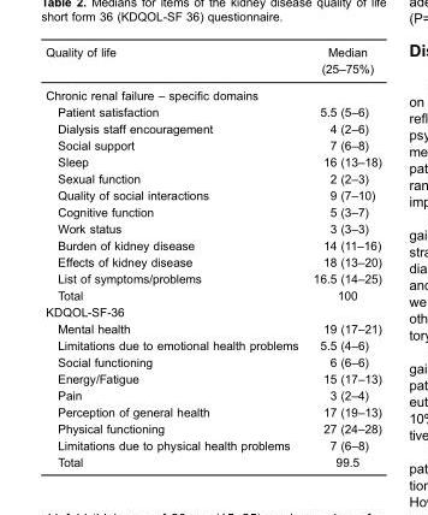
<table><thead><tr><td>Quality of life</td><td>Median (25–75%)</td></tr></thead><tbody><tr><td colspan="2">Chronic renal failure – specific domains</td></tr><tr><td>Patient satisfaction</td><td>5.5 (5–6)</td></tr><tr><td>Dialysis staff encouragement</td><td>4 (2–6)</td></tr><tr><td>Social support</td><td>7 (6–8)</td></tr><tr><td>Sleep</td><td>16 (13–18)</td></tr><tr><td>Sexual function</td><td>2 (2–3)</td></tr><tr><td>Quality of social interactions</td><td>9 (7–10)</td></tr><tr><td>Cognitive function</td><td>5 (3–7)</td></tr><tr><td>Work status</td><td>3 (3–3)</td></tr><tr><td>Burden of kidney disease</td><td>14 (11–16)</td></tr><tr><td>Effects of kidney disease</td><td>18 (13–20)</td></tr><tr><td>List of symptoms/problems</td><td>16.5 (14–25)</td></tr><tr><td>Total</td><td>100</td></tr><tr><td colspan="2">KDQOL-SF-36</td></tr><tr><td>Mental health</td><td>19 (17–21)</td></tr><tr><td>Limitations due to emotional health problems</td><td>5.5 (4–6)</td></tr><tr><td>Social functioning</td><td>6 (6–6)</td></tr><tr><td>Energy/Fatigue</td><td>15 (17–13)</td></tr><tr><td>Pain</td><td>3 (2–4)</td></tr><tr><td>Perception of general health</td><td>17 (19–13)</td></tr><tr><td>Physical functioning</td><td>27 (24–28)</td></tr><tr><td>Limitations due to physical health problems</td><td>7 (6–8)</td></tr><tr><td>Total</td><td>99.5</td></tr></tbody></table>